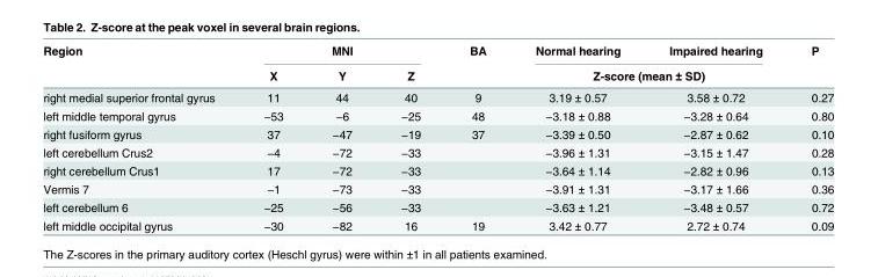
<table><thead><tr><td rowspan="2">Region</td><td colspan="3">MNI</td><td rowspan="2">BA</td><td>Normal hearing</td><td>Impaired hearing</td><td rowspan="2">P</td></tr><tr><td>X</td><td>Y</td><td>Z</td><td colspan="2">Z-score (mean ± SD)</td></tr></thead><tbody><tr><td>right medial superior frontal gyrus</td><td>11</td><td>44</td><td>40</td><td>9</td><td>3.19 ± 0.57</td><td>3.58 ± 0.72</td><td>0.27</td></tr><tr><td>left middle temporal gyrus</td><td>−53</td><td>−6</td><td>−25</td><td>48</td><td>−3.18 ± 0.88</td><td>−3.28 ± 0.64</td><td>0.80</td></tr><tr><td>right fusiform gyrus</td><td>37</td><td>−47</td><td>−19</td><td>37</td><td>−3.39 ± 0.50</td><td>−2.87 ± 0.62</td><td>0.10</td></tr><tr><td>left cerebellum Crus2</td><td>−4</td><td>−72</td><td>−33</td><td></td><td>−3.96 ± 1.31</td><td>−3.15 ± 1.47</td><td>0.28</td></tr><tr><td>right cerebellum Crus1</td><td>17</td><td>−72</td><td>−33</td><td></td><td>−3.64 ± 1.14</td><td>−2.82 ± 0.96</td><td>0.13</td></tr><tr><td>Vermis 7</td><td>−1</td><td>−73</td><td>−33</td><td></td><td>−3.91 ± 1.31</td><td>−3.17 ± 1.66</td><td>0.36</td></tr><tr><td>left cerebellum 6</td><td>−25</td><td>−56</td><td>−33</td><td></td><td>−3.63 ± 1.21</td><td>−3.48 ± 0.57</td><td>0.72</td></tr><tr><td>left middle occipital gyrus</td><td>−30</td><td>−82</td><td>16</td><td>19</td><td>3.42 ± 0.77</td><td>2.72 ± 0.74</td><td>0.09</td></tr></tbody></table>